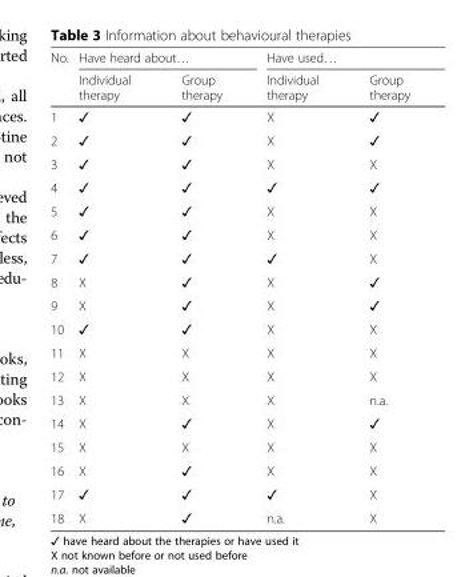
<table><thead><tr><td rowspan="2">No.</td><td colspan="2">Have heard about…</td><td colspan="2">Have used…</td></tr><tr><td>Individual therapy</td><td>Group therapy</td><td>Individual therapy</td><td>Group therapy</td></tr></thead><tbody><tr><td>1</td><td>✓</td><td>✓</td><td>X</td><td>✓</td></tr><tr><td>2</td><td>✓</td><td>✓</td><td>X</td><td>✓</td></tr><tr><td>3</td><td>✓</td><td>✓</td><td>X</td><td>X</td></tr><tr><td>4</td><td>✓</td><td>✓</td><td>✓</td><td>✓</td></tr><tr><td>5</td><td>✓</td><td>✓</td><td>X</td><td>X</td></tr><tr><td>6</td><td>✓</td><td>✓</td><td>X</td><td>X</td></tr><tr><td>7</td><td>✓</td><td>✓</td><td>✓</td><td>X</td></tr><tr><td>8</td><td>X</td><td>✓</td><td>X</td><td>✓</td></tr><tr><td>9</td><td>X</td><td>✓</td><td>X</td><td>✓</td></tr><tr><td>10</td><td>✓</td><td>✓</td><td>X</td><td>X</td></tr><tr><td>11</td><td>X</td><td>X</td><td>X</td><td>X</td></tr><tr><td>12</td><td>X</td><td>X</td><td>X</td><td>X</td></tr><tr><td>13</td><td>X</td><td>X</td><td>X</td><td>n.a.</td></tr><tr><td>14</td><td>X</td><td>✓</td><td>X</td><td>✓</td></tr><tr><td>15</td><td>X</td><td>X</td><td>X</td><td>X</td></tr><tr><td>16</td><td>X</td><td>✓</td><td>X</td><td>X</td></tr><tr><td>17</td><td>✓</td><td>✓</td><td>✓</td><td>X</td></tr><tr><td>18</td><td>X</td><td>✓</td><td>n.a.</td><td>X</td></tr></tbody></table>